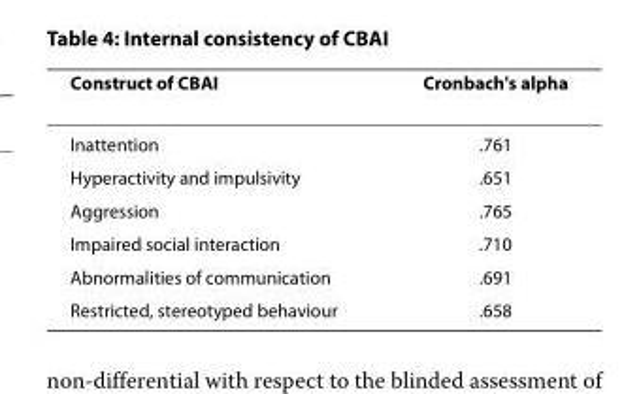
<table><thead><tr><td>Construct of CBAI</td><td>Cronbach&#x27;s alpha</td></tr></thead><tbody><tr><td>Inattention</td><td>.761</td></tr><tr><td>Hyperactivity and impulsivity</td><td>.651</td></tr><tr><td>Aggression</td><td>.765</td></tr><tr><td>Impaired social interaction</td><td>.710</td></tr><tr><td>Abnormalities of communication</td><td>.691</td></tr><tr><td>Restricted, stereotyped behaviour</td><td>.658</td></tr></tbody></table>